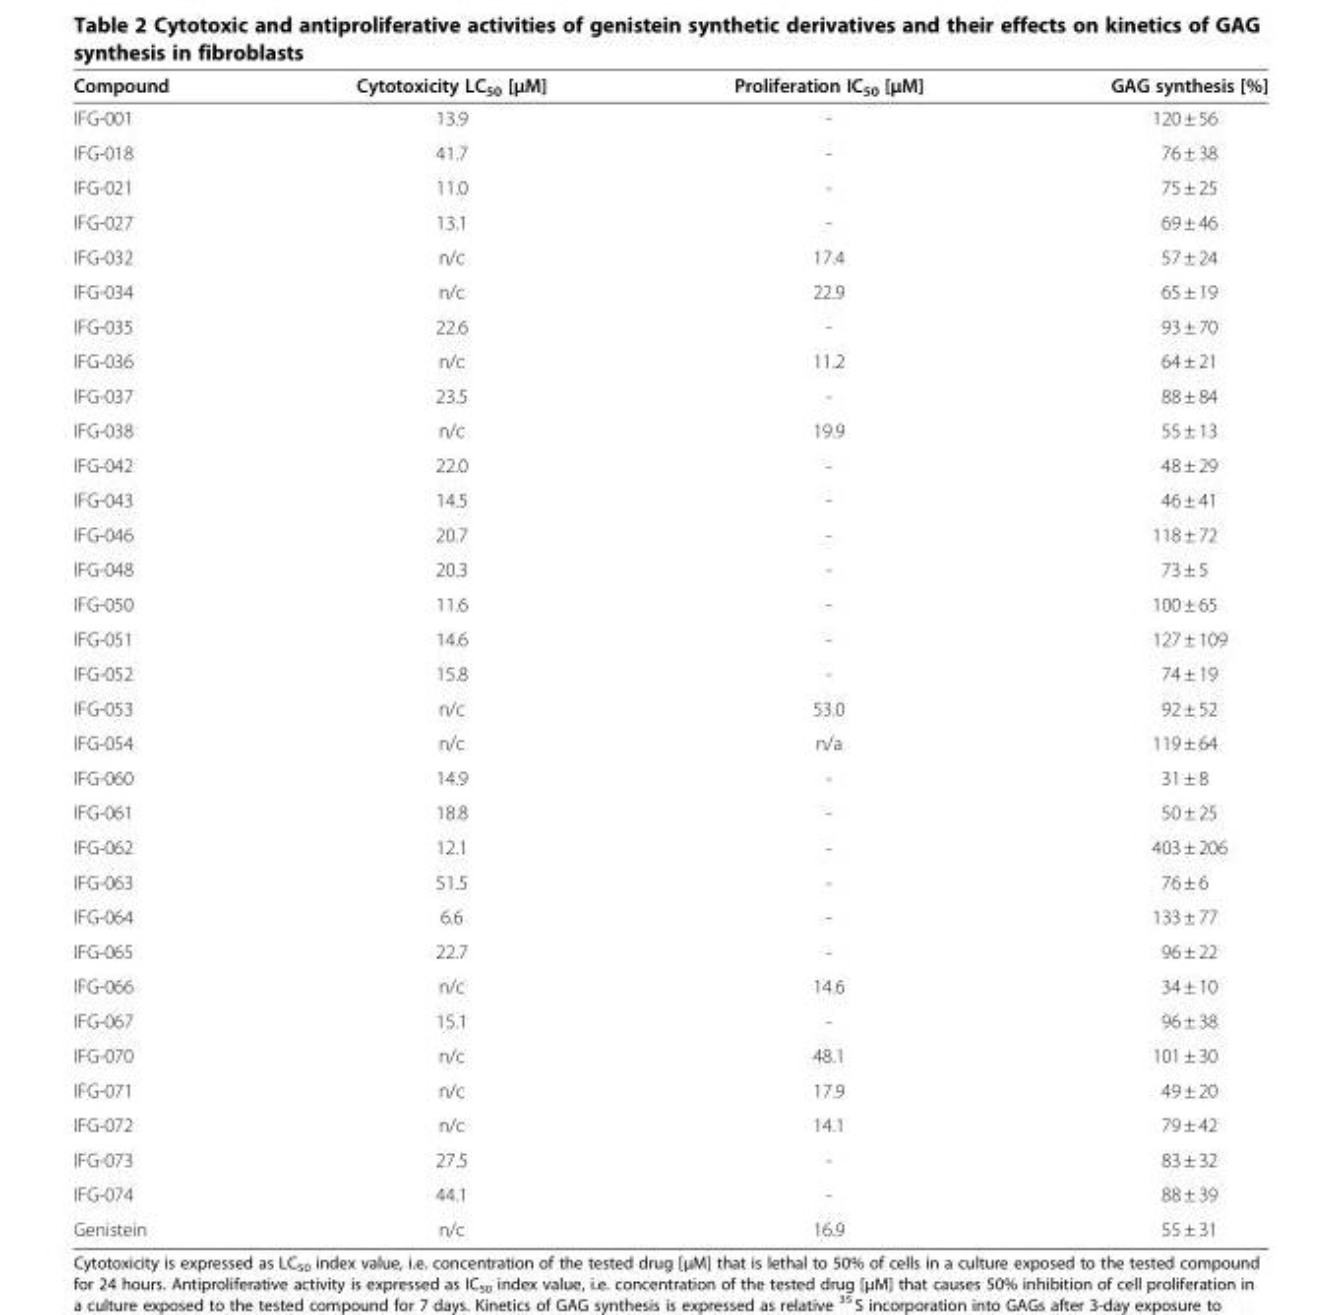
<table><thead><tr><td>Compound</td><td>Cytotoxicity LC<sub>50</sub> [μM]</td><td>Proliferation IC<sub>50</sub> [μM]</td><td>GAG synthesis [%]</td></tr></thead><tbody><tr><td>IFG-001</td><td>13.9</td><td>-</td><td>120 ± 56</td></tr><tr><td>IFG-018</td><td>41.7</td><td>-</td><td>76 ± 38</td></tr><tr><td>IFG-021</td><td>11.0</td><td>-</td><td>75 ± 25</td></tr><tr><td>IFG-027</td><td>13.1</td><td>-</td><td>69 ± 46</td></tr><tr><td>IFG-032</td><td>n/c</td><td>17.4</td><td>57 ± 24</td></tr><tr><td>IFG-034</td><td>n/c</td><td>22.9</td><td>65 ± 19</td></tr><tr><td>IFG-035</td><td>22.6</td><td>-</td><td>93 ± 70</td></tr><tr><td>IFG-036</td><td>n/c</td><td>11.2</td><td>64 ± 21</td></tr><tr><td>IFG-037</td><td>23.5</td><td>-</td><td>88 ± 84</td></tr><tr><td>IFG-038</td><td>n/c</td><td>19.9</td><td>55 ± 13</td></tr><tr><td>IFG-042</td><td>22.0</td><td>-</td><td>48 ± 29</td></tr><tr><td>IFG-043</td><td>14.5</td><td>-</td><td>46 ± 41</td></tr><tr><td>IFG-046</td><td>20.7</td><td>-</td><td>118 ± 72</td></tr><tr><td>IFG-048</td><td>20.3</td><td>-</td><td>73 ± 5</td></tr><tr><td>IFG-050</td><td>11.6</td><td>-</td><td>100 ± 65</td></tr><tr><td>IFG-051</td><td>14.6</td><td>-</td><td>127 ± 109</td></tr><tr><td>IFG-052</td><td>15.8</td><td>-</td><td>74 ± 19</td></tr><tr><td>IFG-053</td><td>n/c</td><td>53.0</td><td>92 ± 52</td></tr><tr><td>IFG-054</td><td>n/c</td><td>n/a</td><td>119 ± 64</td></tr><tr><td>IFG-060</td><td>14.9</td><td>-</td><td>31 ± 8</td></tr><tr><td>IFG-061</td><td>18.8</td><td>-</td><td>50 ± 25</td></tr><tr><td>IFG-062</td><td>12.1</td><td>-</td><td>403 ± 206</td></tr><tr><td>IFG-063</td><td>51.5</td><td>-</td><td>76 ± 6</td></tr><tr><td>IFG-064</td><td>6.6</td><td>-</td><td>133 ± 77</td></tr><tr><td>IFG-065</td><td>22.7</td><td>-</td><td>96 ± 22</td></tr><tr><td>IFG-066</td><td>n/c</td><td>14.6</td><td>34 ± 10</td></tr><tr><td>IFG-067</td><td>15.1</td><td>-</td><td>96 ± 38</td></tr><tr><td>IFG-070</td><td>n/c</td><td>48.1</td><td>101 ± 30</td></tr><tr><td>IFG-071</td><td>n/c</td><td>17.9</td><td>49 ± 20</td></tr><tr><td>IFG-072</td><td>n/c</td><td>14.1</td><td>79 ± 42</td></tr><tr><td>IFG-073</td><td>27.5</td><td>-</td><td>83 ± 32</td></tr><tr><td>IFG-074</td><td>44.1</td><td>-</td><td>88 ± 39</td></tr><tr><td>Genistein</td><td>n/c</td><td>16.9</td><td>55 ± 31</td></tr></tbody></table>